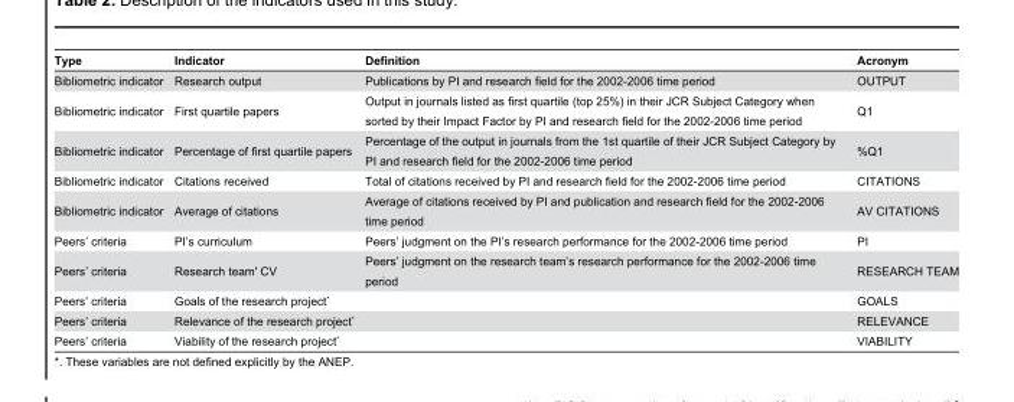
<table><thead><tr><td>Type</td><td>Indicator</td><td>Definition</td><td>Acronym</td></tr></thead><tbody><tr><td>Bibliometric indicator</td><td>Research output</td><td>Publications by PI and research field for the 2002-2006 time period</td><td>OUTPUT</td></tr><tr><td>Bibliometric indicator</td><td>First quartile papers</td><td>Output in journals listed as first quartile (top 25%) in their JCR Subject Category when sorted by their Impact Factor by PI and research field for the 2002-2006 time period</td><td>Q1</td></tr><tr><td>Bibliometric indicator</td><td>Percentage of first quartile papers</td><td>Percentage of the output in journals from the 1st quartile of their JCR Subject Category by PI and research field for the 2002-2006 time period</td><td>%Q1</td></tr><tr><td>Bibliometric indicator</td><td>Citations received</td><td>Total of citations received by PI and research field for the 2002-2006 time period</td><td>CITATIONS</td></tr><tr><td>Bibliometric indicator</td><td>Average of citations</td><td>Average of citations received by PI and publication and research field for the 2002-2006 time period</td><td>AV CITATIONS</td></tr><tr><td>Peers’ criteria</td><td>PI’s curriculum</td><td>Peers’ judgment on the PI’s research performance for the 2002-2006 time period</td><td>PI</td></tr><tr><td>Peers’ criteria</td><td>Research team&#x27; CV</td><td>Peers’ judgment on the research team’s research performance for the 2002-2006 time period</td><td>RESEARCH TEAM</td></tr><tr><td>Peers’ criteria</td><td>Goals of the research project*</td><td></td><td>GOALS</td></tr><tr><td>Peers’ criteria</td><td>Relevance of the research project*</td><td></td><td>RELEVANCE</td></tr><tr><td>Peers’ criteria</td><td>Viability of the research project*</td><td></td><td>VIABILITY</td></tr></tbody></table>